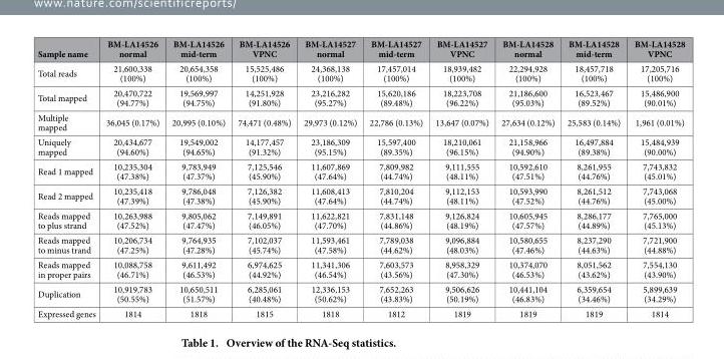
<table><thead><tr><td>Sample name</td><td>BM-LA14526 normal</td><td>BM-LA14526 mid-term</td><td>BM-LA14526 VPNC</td><td>BM-LA14527 normal</td><td>BM-LA14527 mid-term</td><td>BM-LA14527 VPNC</td><td>BM-LA14528 normal</td><td>BM-LA14528 mid-term</td><td>BM-LA14528 VPNC</td></tr></thead><tbody><tr><td>Total reads</td><td>21,600,338 (100%)</td><td>20,654,358 (100%)</td><td>15,525,486 (100%)</td><td>24,368,138 (100%)</td><td>17,457,014 (100%)</td><td>18,939,482 (100%)</td><td>22,294,928 (100%)</td><td>18,457,718 (100%)</td><td>17,205,716 (100%)</td></tr><tr><td>Total mapped</td><td>20,470,722 (94.77%)</td><td>19,569,997 (94.75%)</td><td>14,251,928 (91.80%)</td><td>23,216,282 (95.27%)</td><td>15,620,186 (89.48%)</td><td>18,223,708 (96.22%)</td><td>21,186,600 (95.03%)</td><td>16,523,467 (89.52%)</td><td>15,486,900 (90.01%)</td></tr><tr><td>Multiple mapped</td><td>36,045 (0.17%)</td><td>20,995 (0.10%)</td><td>74,471 (0.48%)</td><td>29,973 (0.12%)</td><td>22,786 (0.13%)</td><td>13,647 (0.07%)</td><td>27,634 (0.12%)</td><td>25,583 (0.14%)</td><td>1,961 (0.01%)</td></tr><tr><td>Uniquely mapped</td><td>20,434,677 (94.60%)</td><td>19,549,002 (94.65%)</td><td>14,177,457 (91.32%)</td><td>23,186,309 (95.15%)</td><td>15,597,400 (89.35%)</td><td>18,210,061 (96.15%)</td><td>21,158,966 (94.90%)</td><td>16,497,884 (89.38%)</td><td>15,484,939 (90.00%)</td></tr><tr><td>Read 1 mapped</td><td>10,235,304 (47.38%)</td><td>9,783,949 (47.37%)</td><td>7,125,546 (45.90%)</td><td>11,607,869 (47.64%)</td><td>7,809,982 (44.74%)</td><td>9,111,555 (48.11%)</td><td>10,592,610 (47.51%)</td><td>8,261,955 (44.76%)</td><td>7,743,832 (45.01%)</td></tr><tr><td>Read 2 mapped</td><td>10,235,418 (47.39%)</td><td>9,786,048 (47.38%)</td><td>7,126,382 (45.90%)</td><td>11,608,413 (47.64%)</td><td>7,810,204 (44.74%)</td><td>9,112,153 (48.11%)</td><td>10,593,990 (47.52%)</td><td>8,261,512 (44.76%)</td><td>7,743,068 (45.00%)</td></tr><tr><td>Reads mapped to plus strand</td><td>10,263,988 (47.52%)</td><td>9,805,062 (47.47%)</td><td>7,149,891 (46.05%)</td><td>11,622,821 (47.70%)</td><td>7,831,148 (44.86%)</td><td>9,126,824 (48.19%)</td><td>10,605,945 (47.57%)</td><td>8,286,177 (44.89%)</td><td>7,765,000 (45.13%)</td></tr><tr><td>Reads mapped to minus trand</td><td>10,206,734 (47.25%)</td><td>9,764,935 (47.28%)</td><td>7,102,037 (45.74%)</td><td>11,593,461 (47.58%)</td><td>7,789,038 (44.62%)</td><td>9,096,884 (48.03%)</td><td>10,580,655 (47.46%)</td><td>8,237,290 (44.63%)</td><td>7,721,900 (44.88%)</td></tr><tr><td>Reads mapped in proper pairs</td><td>10,088,758 (46.71%)</td><td>9,611,492 (46.53%)</td><td>6,974,625 (44.92%)</td><td>11,341,306 (46.54%)</td><td>7,603,573 (43.56%)</td><td>8,958,329 (47.30%)</td><td>10,374,070 (46.53%)</td><td>8,051,562 (43.62%)</td><td>7,554,130 (43.90%)</td></tr><tr><td>Duplication</td><td>10,919,783 (50.55%)</td><td>10,650,511 (51.57%)</td><td>6,285,061 (40.48%)</td><td>12,336,153 (50.62%)</td><td>7,652,263 (43.83%)</td><td>9,506,626 (50.19%)</td><td>10,441,104 (46.83%)</td><td>6,359,654 (34.46%)</td><td>5,899,639 (34.29%)</td></tr><tr><td>Expressed genes</td><td>1814</td><td>1818</td><td>1815</td><td>1818</td><td>1812</td><td>1819</td><td>1819</td><td>1819</td><td>1814</td></tr></tbody></table>